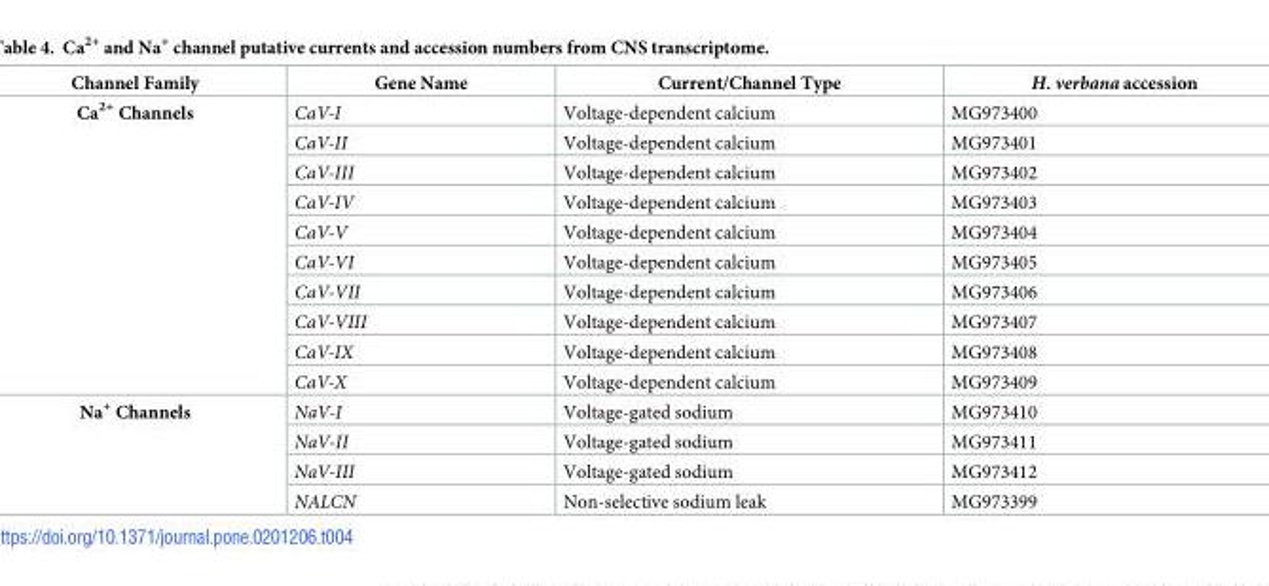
<table><thead><tr><td>Channel Family</td><td>Gene Name</td><td>Current/Channel Type</td><td>H. verbana accession</td></tr></thead><tbody><tr><td rowspan="10">Ca<sup>2+</sup> Channels</td><td>CaV-I</td><td>Voltage-dependent calcium</td><td>MG973400</td></tr><tr><td>CaV-II</td><td>Voltage-dependent calcium</td><td>MG973401</td></tr><tr><td>CaV-III</td><td>Voltage-dependent calcium</td><td>MG973402</td></tr><tr><td>CaV-IV</td><td>Voltage-dependent calcium</td><td>MG973403</td></tr><tr><td>CaV-V</td><td>Voltage-dependent calcium</td><td>MG973404</td></tr><tr><td>CaV-VI</td><td>Voltage-dependent calcium</td><td>MG973405</td></tr><tr><td>CaV-VII</td><td>Voltage-dependent calcium</td><td>MG973406</td></tr><tr><td>CaV-VIII</td><td>Voltage-dependent calcium</td><td>MG973407</td></tr><tr><td>CaV-IX</td><td>Voltage-dependent calcium</td><td>MG973408</td></tr><tr><td>CaV-X</td><td>Voltage-dependent calcium</td><td>MG973409</td></tr><tr><td rowspan="4">Na<sup>+</sup> Channels</td><td>NaV-I</td><td>Voltage-gated sodium</td><td>MG973410</td></tr><tr><td>NaV-II</td><td>Voltage-gated sodium</td><td>MG973411</td></tr><tr><td>NaV-III</td><td>Voltage-gated sodium</td><td>MG973412</td></tr><tr><td>NALCN</td><td>Non-selective sodium leak</td><td>MG973399</td></tr></tbody></table>